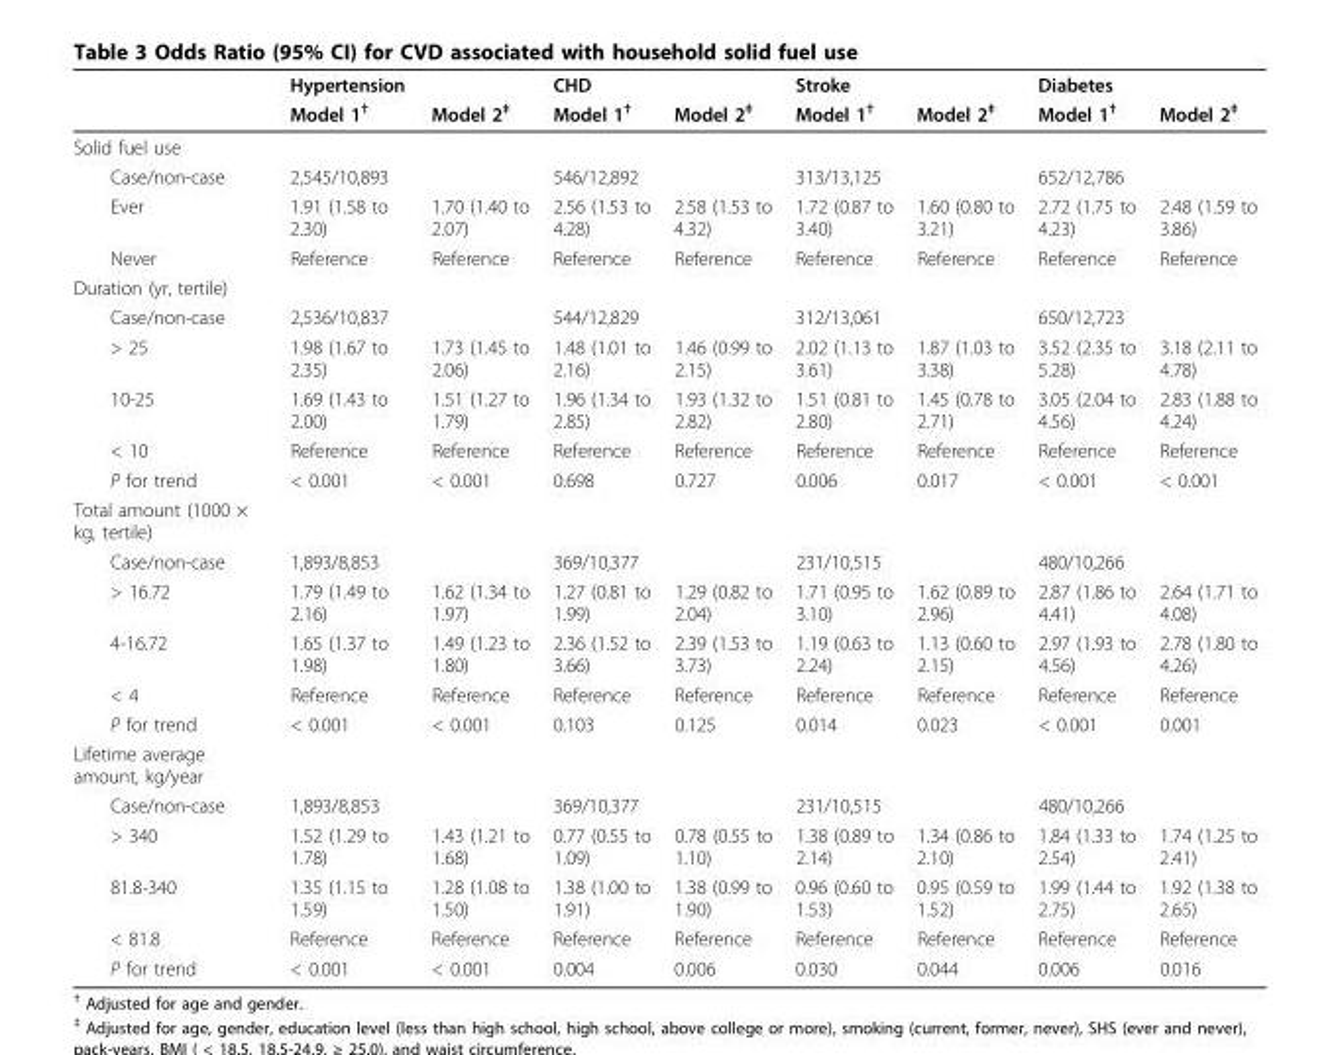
<table><thead><tr><td rowspan="2"></td><td rowspan="2">Hypertension Model 1<sup>†</sup></td><td rowspan="2">Model 2<sup>‡</sup></td><td rowspan="2">CHD Model 1<sup>†</sup></td><td rowspan="2">Model 2<sup>‡</sup></td><td rowspan="2">Stroke Model 1<sup>†</sup></td><td rowspan="2">Model 2<sup>‡</sup></td><td rowspan="2">Diabetes Model 1<sup>†</sup></td><td rowspan="2">Model 2<sup>‡</sup></td></tr><tr></tr></thead><tbody><tr><td colspan="9">Solid fuel use</td></tr><tr><td>Case/non-case</td><td>2,545/10,893</td><td></td><td>546/12,892</td><td></td><td>313/13,125</td><td></td><td>652/12,786</td><td></td></tr><tr><td>Ever</td><td>1.91 (1.58 to 2.30)</td><td>1.70 (1.40 to 2.07)</td><td>2.56 (1.53 to 4.28)</td><td>2.58 (1.53 to 4.32)</td><td>1.72 (0.87 to 3.40)</td><td>1.60 (0.80 to 3.21)</td><td>2.72 (1.75 to 4.23)</td><td>2.48 (1.59 to 3.86)</td></tr><tr><td>Never</td><td>Reference</td><td>Reference</td><td>Reference</td><td>Reference</td><td>Reference</td><td>Reference</td><td>Reference</td><td>Reference</td></tr><tr><td colspan="9">Duration (yr, tertile)</td></tr><tr><td>Case/non-case</td><td>2,536/10,837</td><td></td><td>544/12,829</td><td></td><td>312/13,061</td><td></td><td>650/12,723</td><td></td></tr><tr><td>&gt; 25</td><td>1.98 (1.67 to 2.35)</td><td>1.73 (1.45 to 2.06)</td><td>1.48 (1.01 to 2.16)</td><td>1.46 (0.99 to 2.15)</td><td>2.02 (1.13 to 3.61)</td><td>1.87 (1.03 to 3.38)</td><td>3.52 (2.35 to 5.28)</td><td>3.18 (2.11 to 4.78)</td></tr><tr><td>10-25</td><td>1.69 (1.43 to 2.00)</td><td>1.51 (1.27 to 1.79)</td><td>1.96 (1.34 to 2.85)</td><td>1.93 (1.32 to 2.82)</td><td>1.51 (0.81 to 2.80)</td><td>1.45 (0.78 to 2.71)</td><td>3.05 (2.04 to 4.56)</td><td>2.83 (1.88 to 4.24)</td></tr><tr><td>&lt; 10</td><td>Reference</td><td>Reference</td><td>Reference</td><td>Reference</td><td>Reference</td><td>Reference</td><td>Reference</td><td>Reference</td></tr><tr><td>P for trend</td><td>&lt; 0.001</td><td>&lt; 0.001</td><td>0.698</td><td>0.727</td><td>0.006</td><td>0.017</td><td>&lt; 0.001</td><td>&lt; 0.001</td></tr><tr><td colspan="9">Total amount (1000 × kg, tertile)</td></tr><tr><td>Case/non-case</td><td>1,893/8,853</td><td></td><td>369/10,377</td><td></td><td>231/10,515</td><td></td><td>480/10,266</td><td></td></tr><tr><td>&gt; 16.72</td><td>1.79 (1.49 to 2.16)</td><td>1.62 (1.34 to 1.97)</td><td>1.27 (0.81 to 1.99)</td><td>1.29 (0.82 to 2.04)</td><td>1.71 (0.95 to 3.10)</td><td>1.62 (0.89 to 2.96)</td><td>2.87 (1.86 to 4.41)</td><td>2.64 (1.71 to 4.08)</td></tr><tr><td>4-16.72</td><td>1.65 (1.37 to 1.98)</td><td>1.49 (1.23 to 1.80)</td><td>2.36 (1.52 to 3.66)</td><td>2.39 (1.53 to 3.73)</td><td>1.19 (0.63 to 2.24)</td><td>1.13 (0.60 to 2.15)</td><td>2.97 (1.93 to 4.56)</td><td>2.78 (1.80 to 4.26)</td></tr><tr><td>&lt; 4</td><td>Reference</td><td>Reference</td><td>Reference</td><td>Reference</td><td>Reference</td><td>Reference</td><td>Reference</td><td>Reference</td></tr><tr><td>P for trend</td><td>&lt; 0.001</td><td>&lt; 0.001</td><td>0.103</td><td>0.125</td><td>0.014</td><td>0.023</td><td>&lt; 0.001</td><td>0.001</td></tr><tr><td colspan="9">Lifetime average amount, kg/year</td></tr><tr><td>Case/non-case</td><td>1,893/8,853</td><td></td><td>369/10,377</td><td></td><td>231/10,515</td><td></td><td>480/10,266</td><td></td></tr><tr><td>&gt; 340</td><td>1.52 (1.29 to 1.78)</td><td>1.43 (1.21 to 1.68)</td><td>0.77 (0.55 to 1.09)</td><td>0.78 (0.55 to 1.10)</td><td>1.38 (0.89 to 2.14)</td><td>1.34 (0.86 to 2.10)</td><td>1.84 (1.33 to 2.54)</td><td>1.74 (1.25 to 2.41)</td></tr><tr><td>81.8-340</td><td>1.35 (1.15 to 1.59)</td><td>1.28 (1.08 to 1.50)</td><td>1.38 (1.00 to 1.91)</td><td>1.38 (0.99 to 1.90)</td><td>0.96 (0.60 to 1.53)</td><td>0.95 (0.59 to 1.52)</td><td>1.99 (1.44 to 2.75)</td><td>1.92 (1.38 to 2.65)</td></tr><tr><td>&lt; 81.8</td><td>Reference</td><td>Reference</td><td>Reference</td><td>Reference</td><td>Reference</td><td>Reference</td><td>Reference</td><td>Reference</td></tr><tr><td>P for trend</td><td>&lt; 0.001</td><td>&lt; 0.001</td><td>0.004</td><td>0.006</td><td>0.030</td><td>0.044</td><td>0.006</td><td>0.016</td></tr></tbody></table>